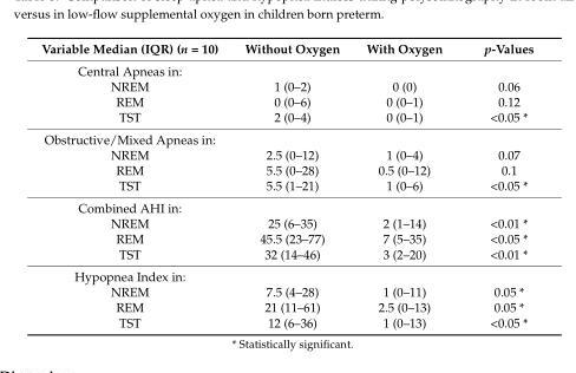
<table><thead><tr><td>Variable Median (IQR) (n = 10)</td><td>Without Oxygen</td><td>With Oxygen</td><td>p-Values</td></tr></thead><tbody><tr><td colspan="4">Central Apneas in:</td></tr><tr><td>NREM</td><td>1 (0–2)</td><td>0 (0)</td><td>0.06</td></tr><tr><td>REM</td><td>0 (0–6)</td><td>0 (0–1)</td><td>0.12</td></tr><tr><td>TST</td><td>2 (0–4)</td><td>0 (0–1)</td><td>&lt;0.05 *</td></tr><tr><td colspan="4">Obstructive/Mixed Apneas in:</td></tr><tr><td>NREM</td><td>2.5 (0–12)</td><td>1 (0–4)</td><td>0.07</td></tr><tr><td>REM</td><td>5.5 (0–28)</td><td>0.5 (0–12)</td><td>0.1</td></tr><tr><td>TST</td><td>5.5 (1–21)</td><td>1 (0–6)</td><td>&lt;0.05 *</td></tr><tr><td colspan="4">Combined AHI in:</td></tr><tr><td>NREM</td><td>25 (6–35)</td><td>2 (1–14)</td><td>&lt;0.01 *</td></tr><tr><td>REM</td><td>45.5 (23–77)</td><td>7 (5–35)</td><td>&lt;0.05 *</td></tr><tr><td>TST</td><td>32 (14–46)</td><td>3 (2–20)</td><td>&lt;0.01 *</td></tr><tr><td colspan="4">Hypopnea Index in:</td></tr><tr><td>NREM</td><td>7.5 (4–28)</td><td>1 (0–11)</td><td>0.05 *</td></tr><tr><td>REM</td><td>21 (11–61)</td><td>2.5 (0–13)</td><td>0.05 *</td></tr><tr><td>TST</td><td>12 (6–36)</td><td>1 (0–13)</td><td>&lt;0.05 *</td></tr></tbody></table>